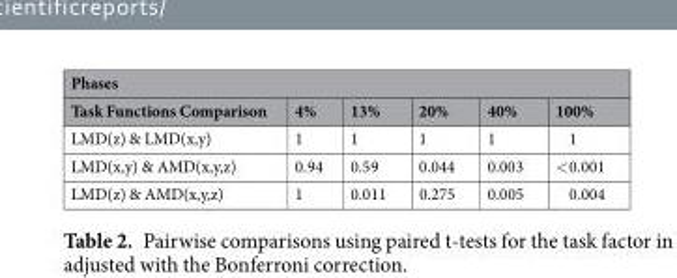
<table><thead><tr><td colspan="6">Phases</td></tr><tr><td>Task Functions Comparison</td><td>4%</td><td>13%</td><td>20%</td><td>40%</td><td>100%</td></tr></thead><tbody><tr><td>LMD(z) &amp; LMD(x,y)</td><td>1</td><td>1</td><td>1</td><td>1</td><td>1</td></tr><tr><td>LMD(x,y) &amp; AMD(x,y,z)</td><td>0.94</td><td>0.59</td><td>0.044</td><td>0.003</td><td>&lt;0.001</td></tr><tr><td>LMD(z) &amp; AMD(x,y,z)</td><td>1</td><td>0.011</td><td>0.275</td><td>0.005</td><td>0.004</td></tr></tbody></table>